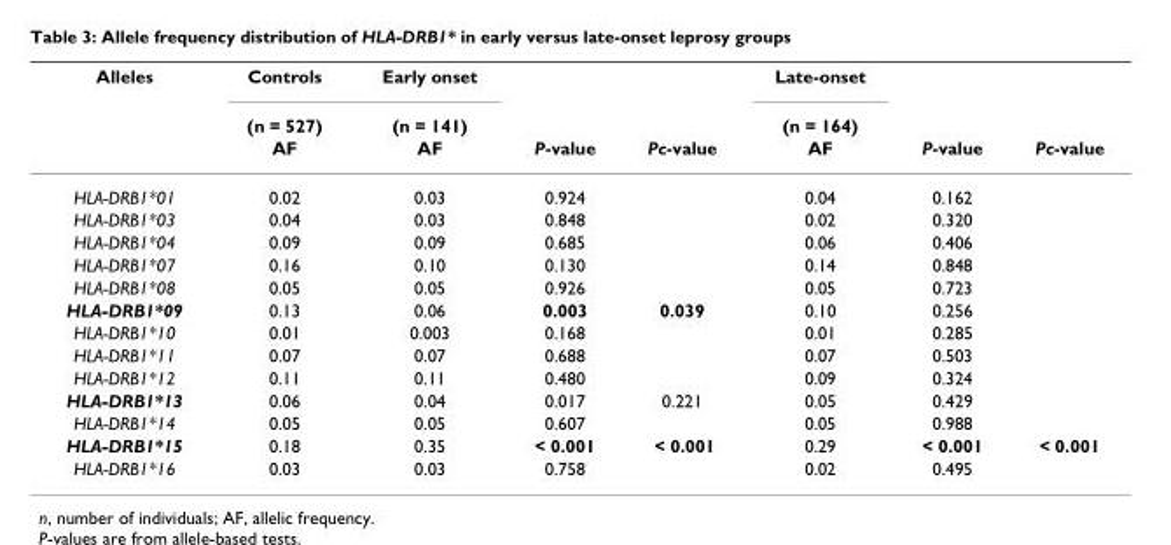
<table><thead><tr><td rowspan="3">Alleles</td><td rowspan="3">Controls (n = 527) AF</td><td rowspan="3">Early onset (n = 141) AF</td><td rowspan="3">P-value</td><td rowspan="3">Pc-value</td><td rowspan="3">Late-onset (n = 164) AF</td><td rowspan="3">P-value</td><td rowspan="3">Pc-value</td></tr><tr></tr><tr></tr></thead><tbody><tr><td>HLA-DRB1*01</td><td>0.02</td><td>0.03</td><td>0.924</td><td></td><td>0.04</td><td>0.162</td><td></td></tr><tr><td>HLA-DRB1*03</td><td>0.04</td><td>0.03</td><td>0.848</td><td></td><td>0.02</td><td>0.320</td><td></td></tr><tr><td>HLA-DRB1*04</td><td>0.09</td><td>0.09</td><td>0.685</td><td></td><td>0.06</td><td>0.406</td><td></td></tr><tr><td>HLA-DRB1*07</td><td>0.16</td><td>0.10</td><td>0.130</td><td></td><td>0.14</td><td>0.848</td><td></td></tr><tr><td>HLA-DRB1*08</td><td>0.05</td><td>0.05</td><td>0.926</td><td></td><td>0.05</td><td>0.723</td><td></td></tr><tr><td>HLA-DRB1*09</td><td>0.13</td><td>0.06</td><td>0.003</td><td>0.039</td><td>0.10</td><td>0.256</td><td></td></tr><tr><td>HLA-DRB1*10</td><td>0.01</td><td>0.003</td><td>0.168</td><td></td><td>0.01</td><td>0.285</td><td></td></tr><tr><td>HLA-DRB1*11</td><td>0.07</td><td>0.07</td><td>0.688</td><td></td><td>0.07</td><td>0.503</td><td></td></tr><tr><td>HLA-DRB1*12</td><td>0.11</td><td>0.11</td><td>0.480</td><td></td><td>0.09</td><td>0.324</td><td></td></tr><tr><td>HLA-DRB1*13</td><td>0.06</td><td>0.04</td><td>0.017</td><td>0.221</td><td>0.05</td><td>0.429</td><td></td></tr><tr><td>HLA-DRB1*14</td><td>0.05</td><td>0.05</td><td>0.607</td><td></td><td>0.05</td><td>0.988</td><td></td></tr><tr><td>HLA-DRB1*15</td><td>0.18</td><td>0.35</td><td>&lt; 0.001</td><td>&lt; 0.001</td><td>0.29</td><td>&lt; 0.001</td><td>&lt; 0.001</td></tr><tr><td>HLA-DRB1*16</td><td>0.03</td><td>0.03</td><td>0.758</td><td></td><td>0.02</td><td>0.495</td><td></td></tr></tbody></table>